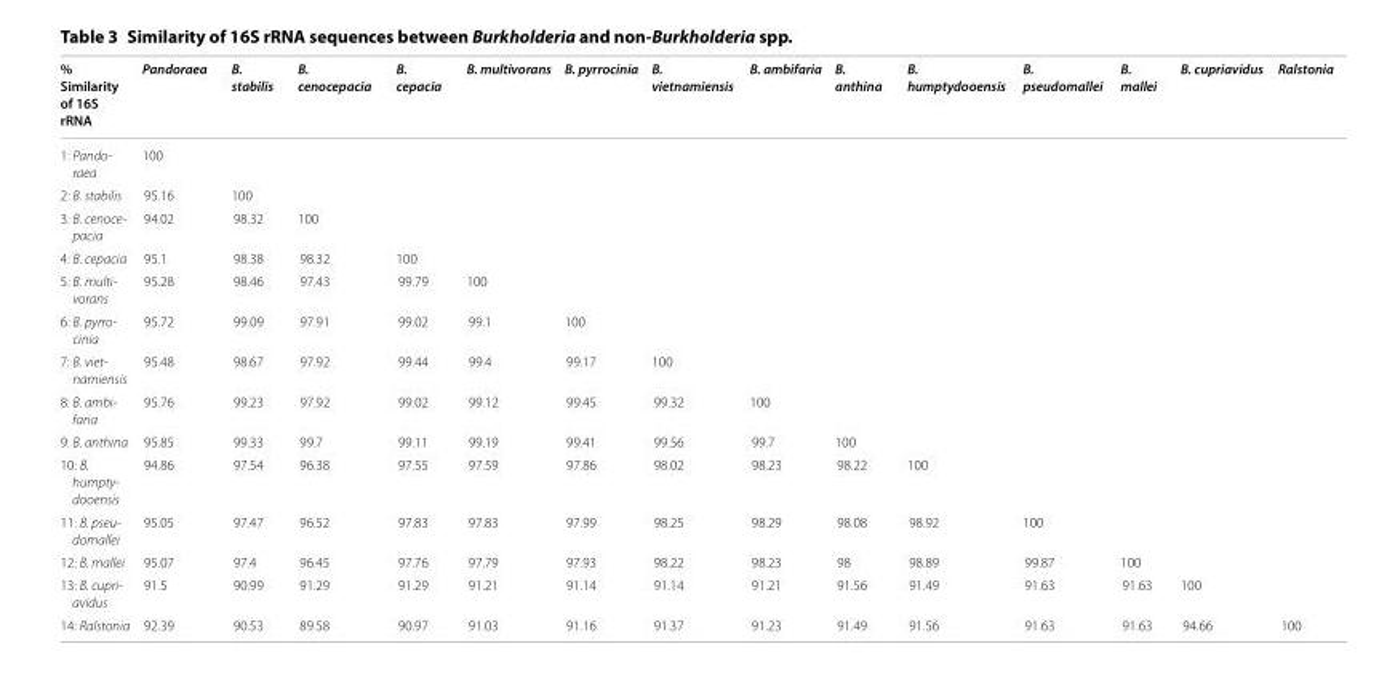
<table><thead><tr><td>% Similarity of 16S rRNA</td><td>Pandoraea</td><td>B. stabilis</td><td>B. cenocepacia</td><td>B. cepacia</td><td>B. multivorans</td><td>B. pyrrocinia</td><td>B. vietnamiensis</td><td>B. ambifaria</td><td>B. anthina</td><td>B. humptydooensis</td><td>B. pseudomallei</td><td>B. mallei</td><td>B. cupriavidus</td><td>Ralstonia</td></tr></thead><tbody><tr><td>1: Pando- raea</td><td>100</td><td></td><td></td><td></td><td></td><td></td><td></td><td></td><td></td><td></td><td></td><td></td><td></td><td></td></tr><tr><td>2: B. stabilis</td><td>95.16</td><td>100</td><td></td><td></td><td></td><td></td><td></td><td></td><td></td><td></td><td></td><td></td><td></td><td></td></tr><tr><td>3: B. cenoce- pacia</td><td>94.02</td><td>98.32</td><td>100</td><td></td><td></td><td></td><td></td><td></td><td></td><td></td><td></td><td></td><td></td><td></td></tr><tr><td>4: B. cepacia</td><td>95.1</td><td>98.38</td><td>98.32</td><td>100</td><td></td><td></td><td></td><td></td><td></td><td></td><td></td><td></td><td></td><td></td></tr><tr><td>5: B. multi- vorans</td><td>95.28</td><td>98.46</td><td>97.43</td><td>99.79</td><td>100</td><td></td><td></td><td></td><td></td><td></td><td></td><td></td><td></td><td></td></tr><tr><td>6: B. pyrro- cinia</td><td>95.72</td><td>99.09</td><td>97.91</td><td>99.02</td><td>99.1</td><td>100</td><td></td><td></td><td></td><td></td><td></td><td></td><td></td><td></td></tr><tr><td>7: B. viet- namiensis</td><td>95.48</td><td>98.67</td><td>97.92</td><td>99.44</td><td>99.4</td><td>99.17</td><td>100</td><td></td><td></td><td></td><td></td><td></td><td></td><td></td></tr><tr><td>8: B. ambi- faria</td><td>95.76</td><td>99.23</td><td>97.92</td><td>99.02</td><td>99.12</td><td>99.45</td><td>99.32</td><td>100</td><td></td><td></td><td></td><td></td><td></td><td></td></tr><tr><td>9: B. anthina</td><td>95.85</td><td>99.33</td><td>99.7</td><td>99.11</td><td>99.19</td><td>99.41</td><td>99.56</td><td>99.7</td><td>100</td><td></td><td></td><td></td><td></td><td></td></tr><tr><td>10: B. humpty- dooensis</td><td>94.86</td><td>97.54</td><td>96.38</td><td>97.55</td><td>97.59</td><td>97.86</td><td>98.02</td><td>98.23</td><td>98.22</td><td>100</td><td></td><td></td><td></td><td></td></tr><tr><td>11: B. pseu- domallei</td><td>95.05</td><td>97.47</td><td>96.52</td><td>97.83</td><td>97.83</td><td>97.99</td><td>98.25</td><td>98.29</td><td>98.08</td><td>98.92</td><td>100</td><td></td><td></td><td></td></tr><tr><td>12: B. mallei</td><td>95.07</td><td>97.4</td><td>96.45</td><td>97.76</td><td>97.79</td><td>97.93</td><td>98.22</td><td>98.23</td><td>98</td><td>98.89</td><td>99.87</td><td>100</td><td></td><td></td></tr><tr><td>13: B. cupri- avidus</td><td>91.5</td><td>90.99</td><td>91.29</td><td>91.29</td><td>91.21</td><td>91.14</td><td>91.14</td><td>91.21</td><td>91.56</td><td>91.49</td><td>91.63</td><td>91.63</td><td>100</td><td></td></tr><tr><td>14: Ralstonia</td><td>92.39</td><td>90.53</td><td>89.58</td><td>90.97</td><td>91.03</td><td>91.16</td><td>91.37</td><td>91.23</td><td>91.49</td><td>91.56</td><td>91.63</td><td>91.63</td><td>94.66</td><td>100</td></tr></tbody></table>